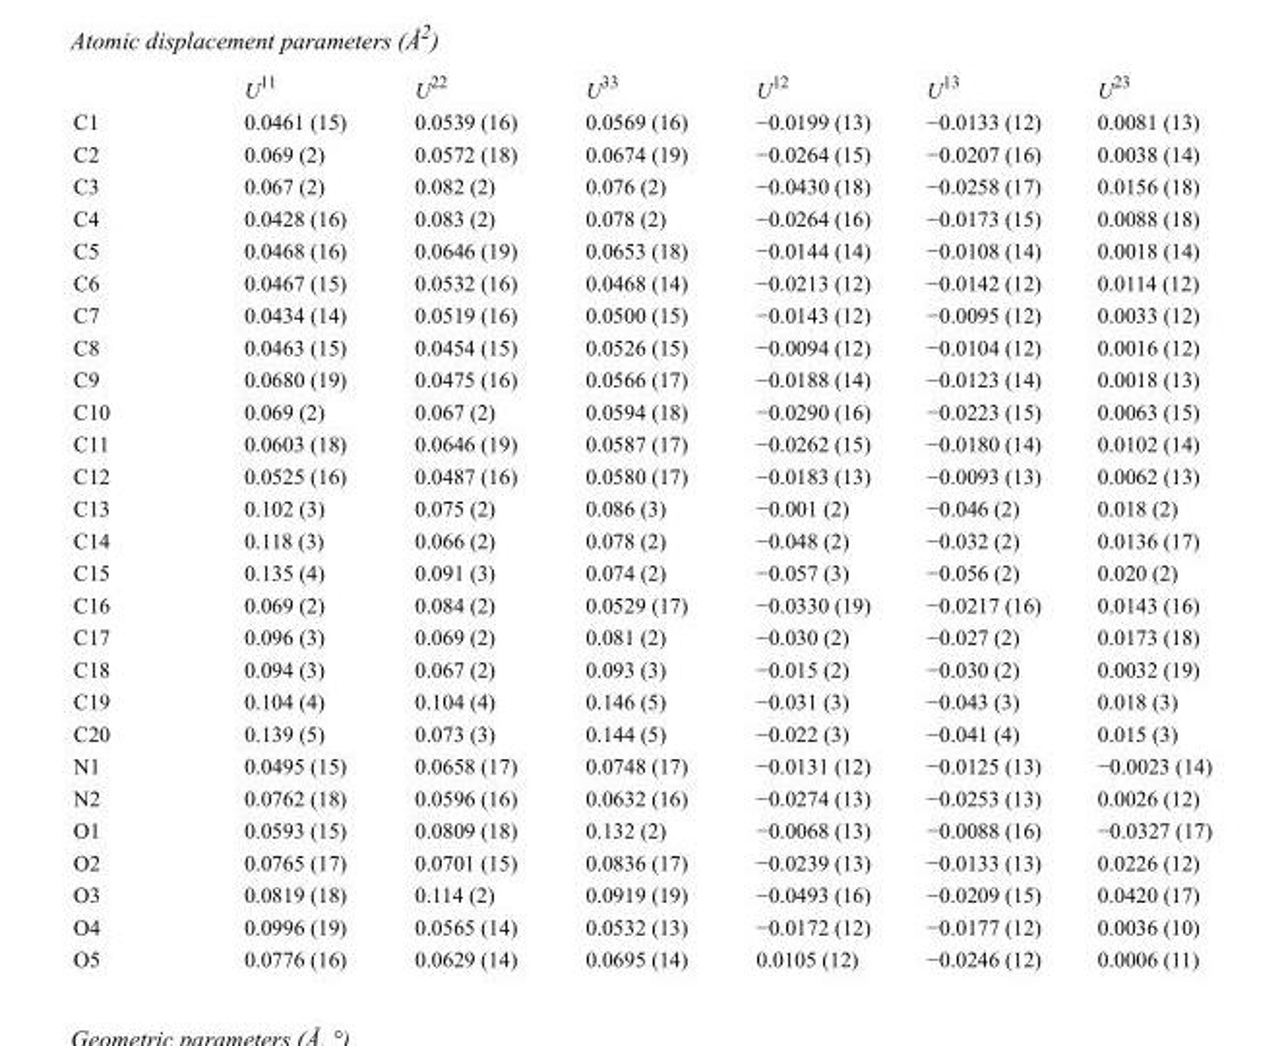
<table><thead><tr><td></td><td>U<sup>11</sup></td><td>U<sup>22</sup></td><td>U<sup>33</sup></td><td>U<sup>12</sup></td><td>U<sup>13</sup></td><td>U<sup>23</sup></td></tr></thead><tbody><tr><td>C1</td><td>0.0461 (15)</td><td>0.0539 (16)</td><td>0.0569 (16)</td><td>−0.0199 (13)</td><td>−0.0133 (12)</td><td>0.0081 (13)</td></tr><tr><td>C2</td><td>0.069 (2)</td><td>0.0572 (18)</td><td>0.0674 (19)</td><td>−0.0264 (15)</td><td>−0.0207 (16)</td><td>0.0038 (14)</td></tr><tr><td>C3</td><td>0.067 (2)</td><td>0.082 (2)</td><td>0.076 (2)</td><td>−0.0430 (18)</td><td>−0.0258 (17)</td><td>0.0156 (18)</td></tr><tr><td>C4</td><td>0.0428 (16)</td><td>0.083 (2)</td><td>0.078 (2)</td><td>−0.0264 (16)</td><td>−0.0173 (15)</td><td>0.0088 (18)</td></tr><tr><td>C5</td><td>0.0468 (16)</td><td>0.0646 (19)</td><td>0.0653 (18)</td><td>−0.0144 (14)</td><td>−0.0108 (14)</td><td>0.0018 (14)</td></tr><tr><td>C6</td><td>0.0467 (15)</td><td>0.0532 (16)</td><td>0.0468 (14)</td><td>−0.0213 (12)</td><td>−0.0142 (12)</td><td>0.0114 (12)</td></tr><tr><td>C7</td><td>0.0434 (14)</td><td>0.0519 (16)</td><td>0.0500 (15)</td><td>−0.0143 (12)</td><td>−0.0095 (12)</td><td>0.0033 (12)</td></tr><tr><td>C8</td><td>0.0463 (15)</td><td>0.0454 (15)</td><td>0.0526 (15)</td><td>−0.0094 (12)</td><td>−0.0104 (12)</td><td>0.0016 (12)</td></tr><tr><td>C9</td><td>0.0680 (19)</td><td>0.0475 (16)</td><td>0.0566 (17)</td><td>−0.0188 (14)</td><td>−0.0123 (14)</td><td>0.0018 (13)</td></tr><tr><td>C10</td><td>0.069 (2)</td><td>0.067 (2)</td><td>0.0594 (18)</td><td>−0.0290 (16)</td><td>−0.0223 (15)</td><td>0.0063 (15)</td></tr><tr><td>C11</td><td>0.0603 (18)</td><td>0.0646 (19)</td><td>0.0587 (17)</td><td>−0.0262 (15)</td><td>−0.0180 (14)</td><td>0.0102 (14)</td></tr><tr><td>C12</td><td>0.0525 (16)</td><td>0.0487 (16)</td><td>0.0580 (17)</td><td>−0.0183 (13)</td><td>−0.0093 (13)</td><td>0.0062 (13)</td></tr><tr><td>C13</td><td>0.102 (3)</td><td>0.075 (2)</td><td>0.086 (3)</td><td>−0.001 (2)</td><td>−0.046 (2)</td><td>0.018 (2)</td></tr><tr><td>C14</td><td>0.118 (3)</td><td>0.066 (2)</td><td>0.078 (2)</td><td>−0.048 (2)</td><td>−0.032 (2)</td><td>0.0136 (17)</td></tr><tr><td>C15</td><td>0.135 (4)</td><td>0.091 (3)</td><td>0.074 (2)</td><td>−0.057 (3)</td><td>−0.056 (2)</td><td>0.020 (2)</td></tr><tr><td>C16</td><td>0.069 (2)</td><td>0.084 (2)</td><td>0.0529 (17)</td><td>−0.0330 (19)</td><td>−0.0217 (16)</td><td>0.0143 (16)</td></tr><tr><td>C17</td><td>0.096 (3)</td><td>0.069 (2)</td><td>0.081 (2)</td><td>−0.030 (2)</td><td>−0.027 (2)</td><td>0.0173 (18)</td></tr><tr><td>C18</td><td>0.094 (3)</td><td>0.067 (2)</td><td>0.093 (3)</td><td>−0.015 (2)</td><td>−0.030 (2)</td><td>0.0032 (19)</td></tr><tr><td>C19</td><td>0.104 (4)</td><td>0.104 (4)</td><td>0.146 (5)</td><td>−0.031 (3)</td><td>−0.043 (3)</td><td>0.018 (3)</td></tr><tr><td>C20</td><td>0.139 (5)</td><td>0.073 (3)</td><td>0.144 (5)</td><td>−0.022 (3)</td><td>−0.041 (4)</td><td>0.015 (3)</td></tr><tr><td>N1</td><td>0.0495 (15)</td><td>0.0658 (17)</td><td>0.0748 (17)</td><td>−0.0131 (12)</td><td>−0.0125 (13)</td><td>−0.0023 (14)</td></tr><tr><td>N2</td><td>0.0762 (18)</td><td>0.0596 (16)</td><td>0.0632 (16)</td><td>−0.0274 (13)</td><td>−0.0253 (13)</td><td>0.0026 (12)</td></tr><tr><td>O1</td><td>0.0593 (15)</td><td>0.0809 (18)</td><td>0.132 (2)</td><td>−0.0068 (13)</td><td>−0.0088 (16)</td><td>−0.0327 (17)</td></tr><tr><td>O2</td><td>0.0765 (17)</td><td>0.0701 (15)</td><td>0.0836 (17)</td><td>−0.0239 (13)</td><td>−0.0133 (13)</td><td>0.0226 (12)</td></tr><tr><td>O3</td><td>0.0819 (18)</td><td>0.114 (2)</td><td>0.0919 (19)</td><td>−0.0493 (16)</td><td>−0.0209 (15)</td><td>0.0420 (17)</td></tr><tr><td>O4</td><td>0.0996 (19)</td><td>0.0565 (14)</td><td>0.0532 (13)</td><td>−0.0172 (12)</td><td>−0.0177 (12)</td><td>0.0036 (10)</td></tr><tr><td>O5</td><td>0.0776 (16)</td><td>0.0629 (14)</td><td>0.0695 (14)</td><td>0.0105 (12)</td><td>−0.0246 (12)</td><td>0.0006 (11)</td></tr></tbody></table>